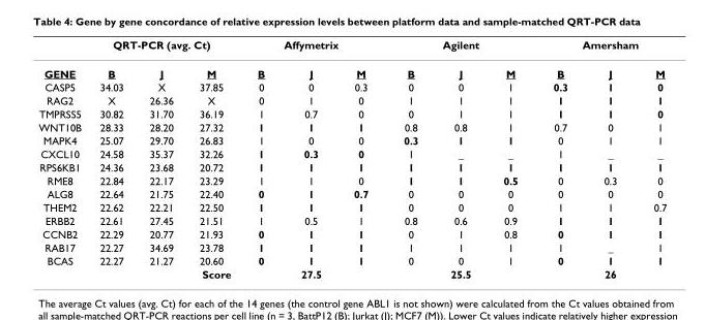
<table><thead><tr><td rowspan="2">GENE</td><td colspan="3">QRT-PCR (avg. Ct)</td><td colspan="3">Affymetrix</td><td colspan="3">Agilent</td><td colspan="3">Amersham</td></tr><tr><td>B</td><td>J</td><td>M</td><td>B</td><td>J</td><td>M</td><td>B</td><td>J</td><td>M</td><td>B</td><td>J</td><td>M</td></tr></thead><tbody><tr><td>CASP5</td><td>34.03</td><td>X</td><td>37.85</td><td>0</td><td>0</td><td>0.3</td><td>0</td><td>0</td><td>1</td><td>0.3</td><td>1</td><td>0</td></tr><tr><td>RAG2</td><td>X</td><td>26.36</td><td>X</td><td>0</td><td>1</td><td>0</td><td>1</td><td>1</td><td>1</td><td>1</td><td>1</td><td>1</td></tr><tr><td>TMPRSS5</td><td>30.82</td><td>31.70</td><td>36.19</td><td>1</td><td>0.7</td><td>0</td><td>0</td><td>1</td><td>1</td><td>1</td><td>1</td><td>0</td></tr><tr><td>WNT10B</td><td>28.33</td><td>28.20</td><td>27.32</td><td>1</td><td>1</td><td>1</td><td>0.8</td><td>0.8</td><td>1</td><td>0.7</td><td>0</td><td>1</td></tr><tr><td>MAPK4</td><td>25.07</td><td>29.70</td><td>26.83</td><td>1</td><td>0</td><td>0</td><td>0.3</td><td>1</td><td>1</td><td>0</td><td>1</td><td>1</td></tr><tr><td>CXCL10</td><td>24.58</td><td>35.37</td><td>32.26</td><td>1</td><td>0.3</td><td>0</td><td>1</td><td>_</td><td>_</td><td>1</td><td>_</td><td>_</td></tr><tr><td>RPS6KB1</td><td>24.36</td><td>23.68</td><td>20.72</td><td>1</td><td>1</td><td>1</td><td>1</td><td>1</td><td>1</td><td>1</td><td>1</td><td>1</td></tr><tr><td>RME8</td><td>22.84</td><td>22.17</td><td>23.29</td><td>1</td><td>1</td><td>0</td><td>1</td><td>1</td><td>0.5</td><td>0</td><td>0.3</td><td>0</td></tr><tr><td>ALG8</td><td>22.64</td><td>21.75</td><td>22.40</td><td>0</td><td>1</td><td>0.7</td><td>0</td><td>0</td><td>0</td><td>0</td><td>0</td><td>0</td></tr><tr><td>THEM2</td><td>22.62</td><td>22.21</td><td>22.50</td><td>1</td><td>1</td><td>1</td><td>0</td><td>0</td><td>0</td><td>1</td><td>1</td><td>0.7</td></tr><tr><td>ERBB2</td><td>22.61</td><td>27.45</td><td>21.51</td><td>1</td><td>0.5</td><td>1</td><td>0.8</td><td>0.6</td><td>0.9</td><td>1</td><td>1</td><td>1</td></tr><tr><td>CCNB2</td><td>22.29</td><td>20.77</td><td>21.93</td><td>0</td><td>1</td><td>1</td><td>0</td><td>1</td><td>0.8</td><td>0</td><td>1</td><td>1</td></tr><tr><td>RAB17</td><td>22.27</td><td>34.69</td><td>23.78</td><td>1</td><td>1</td><td>1</td><td>1</td><td>1</td><td>1</td><td>1</td><td>_</td><td>1</td></tr><tr><td>BCAS</td><td>22.27</td><td>21.27</td><td>20.60</td><td>0</td><td>1</td><td>1</td><td>0</td><td>0</td><td>1</td><td>0</td><td>1</td><td>1</td></tr><tr><td colspan="4">Score</td><td colspan="3">27.5</td><td colspan="3">25.5</td><td colspan="3">26</td></tr></tbody></table>